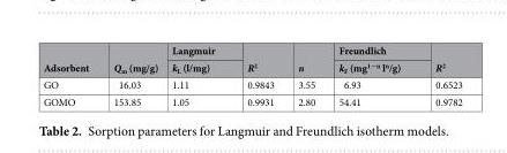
<table><thead><tr><td rowspan="2">Adsorbent</td><td rowspan="2">Q<sub>m</sub> (mg/g)</td><td rowspan="2">Langmuir k<sub>L</sub> (l/mg)</td><td rowspan="2">R<sup>2</sup></td><td rowspan="2">n</td><td rowspan="2">Freundlich k<sub>F</sub> (mg<sup>1−n</sup> l<sup>n</sup>/g)</td><td rowspan="2">R<sup>2</sup></td></tr><tr></tr></thead><tbody><tr><td>GO</td><td>16.03</td><td>1.11</td><td>0.9843</td><td>3.55</td><td>6.93</td><td>0.6523</td></tr><tr><td>GOMO</td><td>153.85</td><td>1.05</td><td>0.9931</td><td>2.80</td><td>54.41</td><td>0.9782</td></tr></tbody></table>